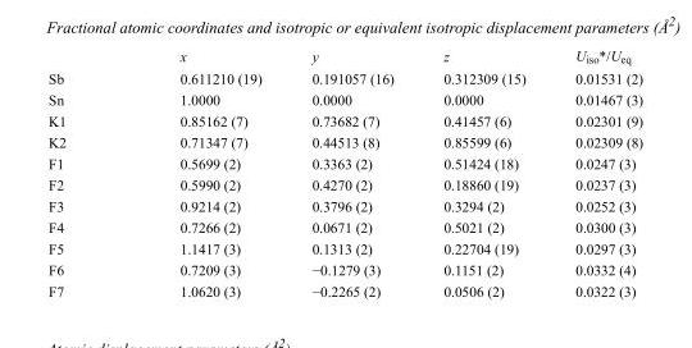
<table><thead><tr><td></td><td>x</td><td>y</td><td>z</td><td>U<sub>iso</sub>*/U<sub>eq</sub></td></tr></thead><tbody><tr><td>Sb</td><td>0.611210 (19)</td><td>0.191057 (16)</td><td>0.312309 (15)</td><td>0.01531 (2)</td></tr><tr><td>Sn</td><td>1.0000</td><td>0.0000</td><td>0.0000</td><td>0.01467 (3)</td></tr><tr><td>K1</td><td>0.85162 (7)</td><td>0.73682 (7)</td><td>0.41457 (6)</td><td>0.02301 (9)</td></tr><tr><td>K2</td><td>0.71347 (7)</td><td>0.44513 (8)</td><td>0.85599 (6)</td><td>0.02309 (8)</td></tr><tr><td>F1</td><td>0.5699 (2)</td><td>0.3363 (2)</td><td>0.51424 (18)</td><td>0.0247 (3)</td></tr><tr><td>F2</td><td>0.5990 (2)</td><td>0.4270 (2)</td><td>0.18860 (19)</td><td>0.0237 (3)</td></tr><tr><td>F3</td><td>0.9214 (2)</td><td>0.3796 (2)</td><td>0.3294 (2)</td><td>0.0252 (3)</td></tr><tr><td>F4</td><td>0.7266 (2)</td><td>0.0671 (2)</td><td>0.5021 (2)</td><td>0.0300 (3)</td></tr><tr><td>F5</td><td>1.1417 (3)</td><td>0.1313 (2)</td><td>0.22704 (19)</td><td>0.0297 (3)</td></tr><tr><td>F6</td><td>0.7209 (3)</td><td>−0.1279 (3)</td><td>0.1151 (2)</td><td>0.0332 (4)</td></tr><tr><td>F7</td><td>1.0620 (3)</td><td>−0.2265 (2)</td><td>0.0506 (2)</td><td>0.0322 (3)</td></tr></tbody></table>